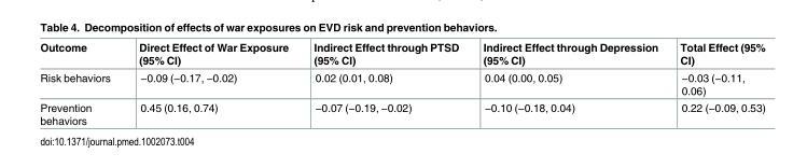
<table><thead><tr><td>Outcome</td><td>Direct Effect of War Exposure (95% CI)</td><td>Indirect Effect through PTSD (95% CI)</td><td>Indirect Effect through Depression (95% CI)</td><td>Total Effect (95% CI)</td></tr></thead><tbody><tr><td>Risk behaviors</td><td>−0.09 (−0.17, −0.02)</td><td>0.02 (0.01, 0.08)</td><td>0.04 (0.00, 0.05)</td><td>−0.03 (−0.11, 0.06)</td></tr><tr><td>Prevention behaviors</td><td>0.45 (0.16, 0.74)</td><td>−0.07 (−0.19, −0.02)</td><td>−0.10 (−0.18, 0.04)</td><td>0.22 (−0.09, 0.53)</td></tr></tbody></table>